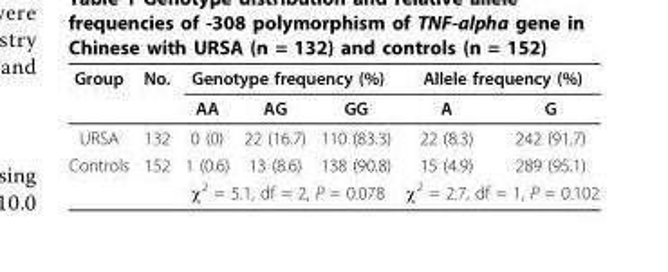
<table><thead><tr><td rowspan="2">Group</td><td rowspan="2">No.</td><td colspan="3">Genotype frequency (%)</td><td colspan="2">Allele frequency (%)</td></tr><tr><td>AA</td><td>AG</td><td>GG</td><td>A</td><td>G</td></tr></thead><tbody><tr><td>URSA</td><td>132</td><td>0 (0)</td><td>22 (16.7)</td><td>110 (83.3)</td><td>22 (8.3)</td><td>242 (91.7)</td></tr><tr><td rowspan="2">Controls</td><td>152</td><td>1 (0.6)</td><td>13 (8.6)</td><td>138 (90.8)</td><td>15 (4.9)</td><td>289 (95.1)</td></tr><tr><td></td><td colspan="3">χ<sup>2</sup> = 5.1, df = 2, P = 0.078</td><td colspan="2">χ<sup>2</sup> = 2.7, df = 1, P = 0.102</td></tr></tbody></table>